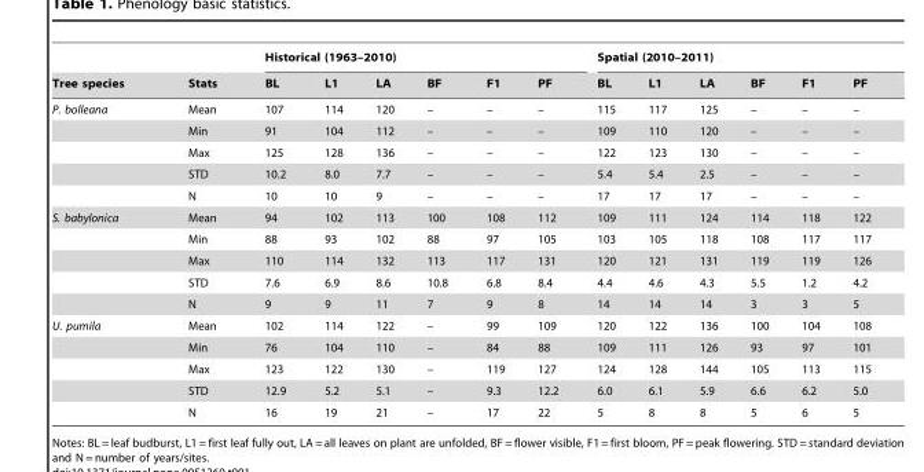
<table><thead><tr><td rowspan="2">Tree species</td><td rowspan="2">Stats</td><td colspan="6">Historical (1963–2010)</td><td colspan="6">Spatial (2010–2011)</td></tr><tr><td>BL</td><td>L1</td><td>LA</td><td>BF</td><td>F1</td><td>PF</td><td>BL</td><td>L1</td><td>LA</td><td>BF</td><td>F1</td><td>PF</td></tr></thead><tbody><tr><td rowspan="5">P. bolleana</td><td>Mean</td><td>107</td><td>114</td><td>120</td><td>–</td><td>–</td><td>–</td><td>115</td><td>117</td><td>125</td><td>–</td><td>–</td><td>–</td></tr><tr><td>Min</td><td>91</td><td>104</td><td>112</td><td>–</td><td>–</td><td>–</td><td>109</td><td>110</td><td>120</td><td>–</td><td>–</td><td>–</td></tr><tr><td>Max</td><td>125</td><td>128</td><td>136</td><td>–</td><td>–</td><td>–</td><td>122</td><td>123</td><td>130</td><td>–</td><td>–</td><td>–</td></tr><tr><td>STD</td><td>10.2</td><td>8.0</td><td>7.7</td><td>–</td><td>–</td><td>–</td><td>5.4</td><td>5.4</td><td>2.5</td><td>–</td><td>–</td><td>–</td></tr><tr><td>N</td><td>10</td><td>10</td><td>9</td><td>–</td><td>–</td><td>–</td><td>17</td><td>17</td><td>17</td><td>–</td><td>–</td><td>–</td></tr><tr><td rowspan="5">S. babylonica</td><td>Mean</td><td>94</td><td>102</td><td>113</td><td>100</td><td>108</td><td>112</td><td>109</td><td>111</td><td>124</td><td>114</td><td>118</td><td>122</td></tr><tr><td>Min</td><td>88</td><td>93</td><td>102</td><td>88</td><td>97</td><td>105</td><td>103</td><td>105</td><td>118</td><td>108</td><td>117</td><td>117</td></tr><tr><td>Max</td><td>110</td><td>114</td><td>132</td><td>113</td><td>117</td><td>131</td><td>120</td><td>121</td><td>131</td><td>119</td><td>119</td><td>126</td></tr><tr><td>STD</td><td>7.6</td><td>6.9</td><td>8.6</td><td>10.8</td><td>6.8</td><td>8.4</td><td>4.4</td><td>4.6</td><td>4.3</td><td>5.5</td><td>1.2</td><td>4.2</td></tr><tr><td>N</td><td>9</td><td>9</td><td>11</td><td>7</td><td>9</td><td>8</td><td>14</td><td>14</td><td>14</td><td>3</td><td>3</td><td>5</td></tr><tr><td rowspan="5">U. pumila</td><td>Mean</td><td>102</td><td>114</td><td>122</td><td>–</td><td>99</td><td>109</td><td>120</td><td>122</td><td>136</td><td>100</td><td>104</td><td>108</td></tr><tr><td>Min</td><td>76</td><td>104</td><td>110</td><td>–</td><td>84</td><td>88</td><td>109</td><td>111</td><td>126</td><td>93</td><td>97</td><td>101</td></tr><tr><td>Max</td><td>123</td><td>122</td><td>130</td><td>–</td><td>119</td><td>127</td><td>124</td><td>128</td><td>144</td><td>105</td><td>113</td><td>115</td></tr><tr><td>STD</td><td>12.9</td><td>5.2</td><td>5.1</td><td>–</td><td>9.3</td><td>12.2</td><td>6.0</td><td>6.1</td><td>5.9</td><td>6.6</td><td>6.2</td><td>5.0</td></tr><tr><td>N</td><td>16</td><td>19</td><td>21</td><td>–</td><td>17</td><td>22</td><td>5</td><td>8</td><td>8</td><td>5</td><td>6</td><td>5</td></tr></tbody></table>